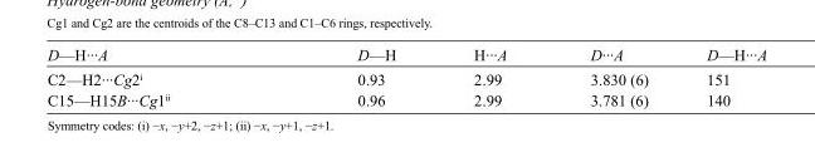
<table><tbody><tr><td>D—H···A</td><td>D—H</td><td>H···A</td><td>D···A</td><td>D—H···A</td></tr><tr><td>C2—H2···Cg2<sup>i</sup></td><td>0.93</td><td>2.99</td><td>3.830 (6)</td><td>151</td></tr><tr><td>C15—H15B···Cg1<sup>ii</sup></td><td>0.96</td><td>2.99</td><td>3.781 (6)</td><td>140</td></tr></tbody></table>